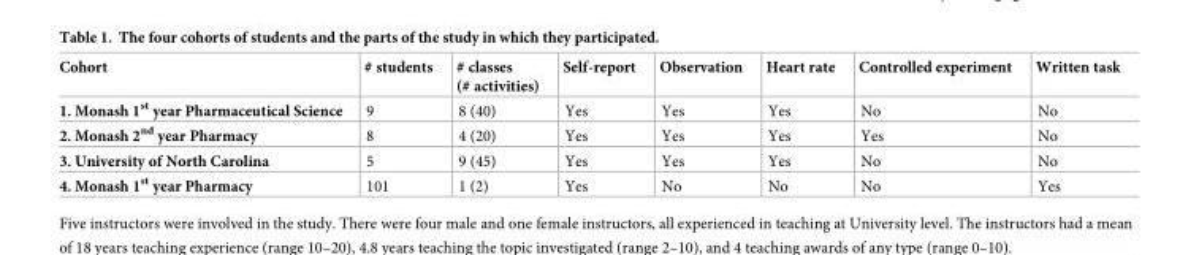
<table><thead><tr><td>Cohort</td><td># students</td><td># classes (# activities)</td><td>Self-report</td><td>Observation</td><td>Heart rate</td><td>Controlled experiment</td><td>Written task</td></tr></thead><tbody><tr><td>1. Monash 1<sup>st</sup> year Pharmaceutical Science</td><td>9</td><td>8 (40)</td><td>Yes</td><td>Yes</td><td>Yes</td><td>No</td><td>No</td></tr><tr><td>2. Monash 2<sup>nd</sup> year Pharmacy</td><td>8</td><td>4 (20)</td><td>Yes</td><td>Yes</td><td>Yes</td><td>Yes</td><td>No</td></tr><tr><td>3. University of North Carolina</td><td>5</td><td>9 (45)</td><td>Yes</td><td>Yes</td><td>Yes</td><td>No</td><td>No</td></tr><tr><td>4. Monash 1<sup>st</sup> year Pharmacy</td><td>101</td><td>1 (2)</td><td>Yes</td><td>No</td><td>No</td><td>No</td><td>Yes</td></tr></tbody></table>